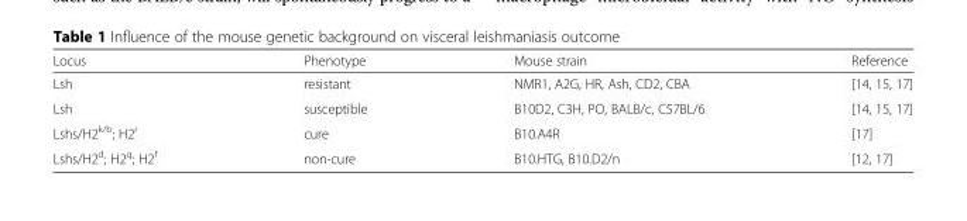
<table><thead><tr><td>Locus</td><td>Phenotype</td><td>Mouse strain</td><td>Reference</td></tr></thead><tbody><tr><td>Lsh</td><td>resistant</td><td>NMR1, A2G, HR, Ash, CD2, CBA</td><td>[14, 15, 17]</td></tr><tr><td>Lsh</td><td>susceptible</td><td>B10D2, C3H, PO, BALB/c, C57BL/6</td><td>[14, 15, 17]</td></tr><tr><td>Lshs/H2<sup>k/b</sup>; H2<sup>r</sup></td><td>cure</td><td>B10.A4R</td><td>[17]</td></tr><tr><td>Lshs/H2<sup>d</sup>; H2<sup>q</sup>; H2<sup>f</sup></td><td>non-cure</td><td>B10.HTG, B10.D2/n</td><td>[12, 17]</td></tr></tbody></table>